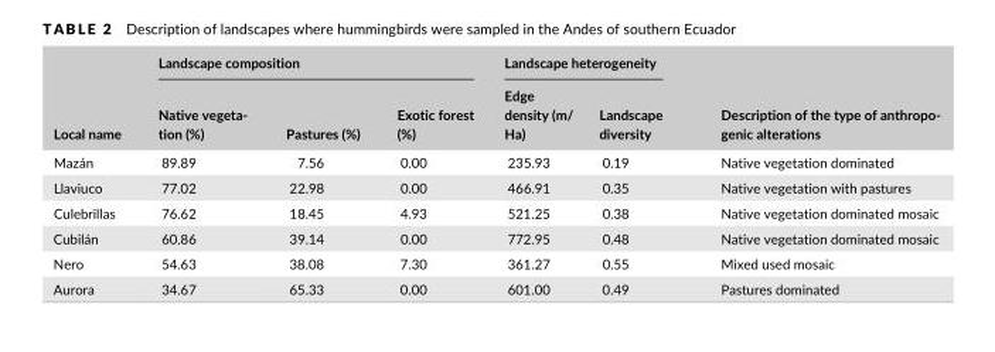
<table><thead><tr><td rowspan="2">Local name</td><td colspan="3">Landscape composition</td><td colspan="2">Landscape heterogeneity</td><td rowspan="2">Description of the type of anthropo- genic alterations</td></tr><tr><td>Native vegeta- tion (%)</td><td>Pastures (%)</td><td>Exotic forest (%)</td><td>Edge density (m/ Ha)</td><td>Landscape diversity</td></tr></thead><tbody><tr><td>Mazán</td><td>89.89</td><td>7.56</td><td>0.00</td><td>235.93</td><td>0.19</td><td>Native vegetation dominated</td></tr><tr><td>Llaviuco</td><td>77.02</td><td>22.98</td><td>0.00</td><td>466.91</td><td>0.35</td><td>Native vegetation with pastures</td></tr><tr><td>Culebrillas</td><td>76.62</td><td>18.45</td><td>4.93</td><td>521.25</td><td>0.38</td><td>Native vegetation dominated mosaic</td></tr><tr><td>Cubilán</td><td>60.86</td><td>39.14</td><td>0.00</td><td>772.95</td><td>0.48</td><td>Native vegetation dominated mosaic</td></tr><tr><td>Nero</td><td>54.63</td><td>38.08</td><td>7.30</td><td>361.27</td><td>0.55</td><td>Mixed used mosaic</td></tr><tr><td>Aurora</td><td>34.67</td><td>65.33</td><td>0.00</td><td>601.00</td><td>0.49</td><td>Pastures dominated</td></tr></tbody></table>